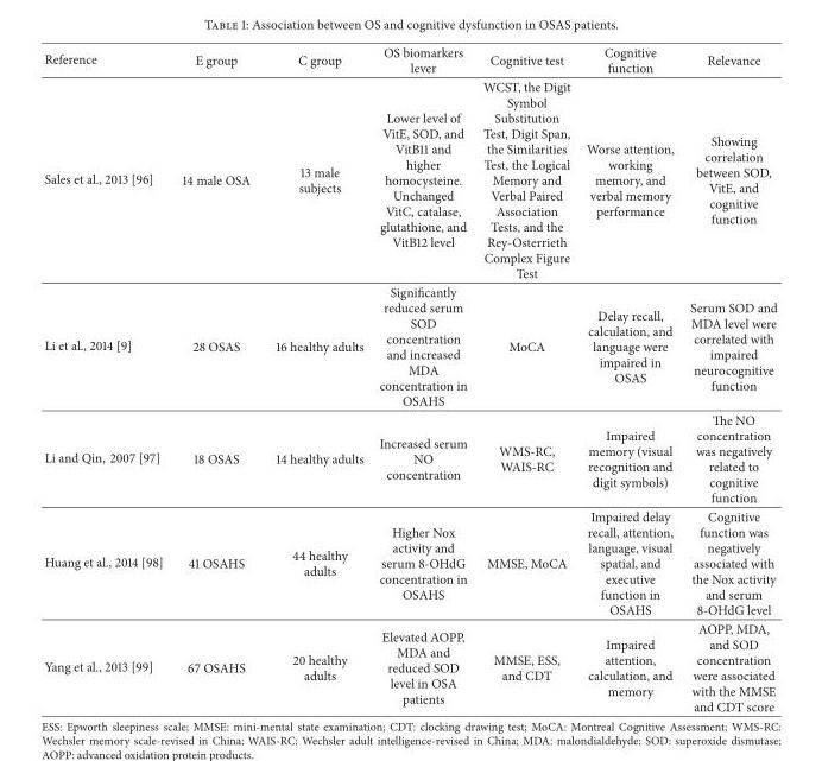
<table><thead><tr><td>Reference</td><td>E group</td><td>C group</td><td>OS biomarkers lever</td><td>Cognitive test</td><td>Cognitive function</td><td>Relevance</td></tr></thead><tbody><tr><td>Sales et al., 2013 [96]</td><td>14 male OSA</td><td>13 male subjects</td><td>Lower level of VitE, SOD, and VitB11 and higher homocysteine. Unchanged VitC, catalase, glutathione, and VitB12 level</td><td>WCST, the Digit Symbol Substitution Test, Digit Span, the Similarities Test, the Logical Memory and Verbal Paired Association Tests, and the Rey-Osterrieth Complex Figure Test</td><td>Worse attention, working memory, and verbal memory performance</td><td>Showing correlation between SOD, VitE, and cognitive function</td></tr><tr><td>Li et al., 2014 [9]</td><td>28 OSAS</td><td>16 healthy adults</td><td>Significantly reduced serum SOD concentration and increased MDA concentration in OSAHS</td><td>MoCA</td><td>Delay recall, calculation, and language were impaired in OSAS</td><td>Serum SOD and MDA level were correlated with impaired neurocognitive function</td></tr><tr><td>Li and Qin, 2007 [97]</td><td>18 OSAS</td><td>14 healthy adults</td><td>Increased serum NO concentration</td><td>WMS-RC, WAIS-RC</td><td>Impaired memory (visual recognition and digit symbols)</td><td>The NO concentration was negatively related to cognitive function</td></tr><tr><td>Huang et al., 2014 [98]</td><td>41 OSAHS</td><td>44 healthy adults</td><td>Higher Nox activity and serum 8-OHdG concentration in OSAHS</td><td>MMSE, MoCA</td><td>Impaired delay recall, attention, language, visual spatial, and executive function in OSAHS</td><td>Cognitive function was negatively associated with the Nox activity and serum 8-OHdG level</td></tr><tr><td>Yang et al., 2013 [99]</td><td>67 OSAHS</td><td>20 healthy adults</td><td>Elevated AOPP, MDA and reduced SOD level in OSA patients</td><td>MMSE, ESS, and CDT</td><td>Impaired attention, calculation, and memory</td><td>AOPP, MDA, and SOD concentration were associated with the MMSE and CDT score</td></tr></tbody></table>